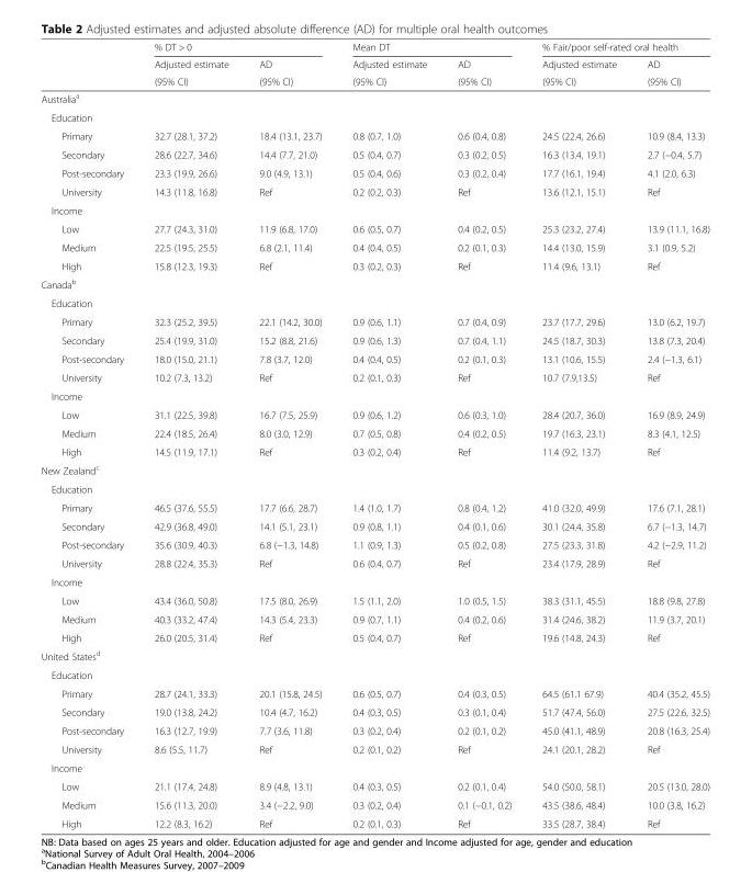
<table><thead><tr><td rowspan="3"></td><td colspan="2">% DT &gt; 0</td><td colspan="2">Mean DT</td><td colspan="2">% Fair/poor self-rated oral health</td></tr><tr><td rowspan="2">Adjusted estimate (95% CI)</td><td rowspan="2">AD (95% CI)</td><td rowspan="2">Adjusted estimate (95% CI)</td><td rowspan="2">AD (95% CI)</td><td rowspan="2">Adjusted estimate (95% CI)</td><td rowspan="2">AD (95% CI)</td></tr><tr></tr></thead><tbody><tr><td colspan="7">Australia<sup>a</sup></td></tr><tr><td colspan="7">Education</td></tr><tr><td>Primary</td><td>32.7 (28.1, 37.2)</td><td>18.4 (13.1, 23.7)</td><td>0.8 (0.7, 1.0)</td><td>0.6 (0.4, 0.8)</td><td>24.5 (22.4, 26.6)</td><td>10.9 (8.4, 13.3)</td></tr><tr><td>Secondary</td><td>28.6 (22.7, 34.6)</td><td>14.4 (7.7, 21.0)</td><td>0.5 (0.4, 0.7)</td><td>0.3 (0.2, 0.5)</td><td>16.3 (13.4, 19.1)</td><td>2.7 (−0.4, 5.7)</td></tr><tr><td>Post-secondary</td><td>23.3 (19.9, 26.6)</td><td>9.0 (4.9, 13.1)</td><td>0.5 (0.4, 0.6)</td><td>0.3 (0.2, 0.4)</td><td>17.7 (16.1, 19.4)</td><td>4.1 (2.0, 6.3)</td></tr><tr><td>University</td><td>14.3 (11.8, 16.8)</td><td>Ref</td><td>0.2 (0.2, 0.3)</td><td>Ref</td><td>13.6 (12.1, 15.1)</td><td>Ref</td></tr><tr><td colspan="7">Income</td></tr><tr><td>Low</td><td>27.7 (24.3, 31.0)</td><td>11.9 (6.8, 17.0)</td><td>0.6 (0.5, 0.7)</td><td>0.4 (0.2, 0.5)</td><td>25.3 (23.2, 27.4)</td><td>13.9 (11.1, 16.8)</td></tr><tr><td>Medium</td><td>22.5 (19.5, 25.5)</td><td>6.8 (2.1, 11.4)</td><td>0.4 (0.4, 0.5)</td><td>0.2 (0.1, 0.3)</td><td>14.4 (13.0, 15.9)</td><td>3.1 (0.9, 5.2)</td></tr><tr><td>High</td><td>15.8 (12.3, 19.3)</td><td>Ref</td><td>0.3 (0.2, 0.3)</td><td>Ref</td><td>11.4 (9.6, 13.1)</td><td>Ref</td></tr><tr><td colspan="7">Canada<sup>b</sup></td></tr><tr><td colspan="7">Education</td></tr><tr><td>Primary</td><td>32.3 (25.2, 39.5)</td><td>22.1 (14.2, 30.0)</td><td>0.9 (0.6, 1.1)</td><td>0.7 (0.4, 0.9)</td><td>23.7 (17.7, 29.6)</td><td>13.0 (6.2, 19.7)</td></tr><tr><td>Secondary</td><td>25.4 (19.9, 31.0)</td><td>15.2 (8.8, 21.6)</td><td>0.9 (0.6, 1.3)</td><td>0.7 (0.4, 1.1)</td><td>24.5 (18.7, 30.3)</td><td>13.8 (7.3, 20.4)</td></tr><tr><td>Post-secondary</td><td>18.0 (15.0, 21.1)</td><td>7.8 (3.7, 12.0)</td><td>0.4 (0.4, 0.5)</td><td>0.2 (0.1, 0.3)</td><td>13.1 (10.6, 15.5)</td><td>2.4 (−1.3, 6.1)</td></tr><tr><td>University</td><td>10.2 (7.3, 13.2)</td><td>Ref</td><td>0.2 (0.1, 0.3)</td><td>Ref</td><td>10.7 (7.9,13.5)</td><td>Ref</td></tr><tr><td colspan="7">Income</td></tr><tr><td>Low</td><td>31.1 (22.5, 39.8)</td><td>16.7 (7.5, 25.9)</td><td>0.9 (0.6, 1.2)</td><td>0.6 (0.3, 1.0)</td><td>28.4 (20.7, 36.0)</td><td>16.9 (8.9, 24.9)</td></tr><tr><td>Medium</td><td>22.4 (18.5, 26.4)</td><td>8.0 (3.0, 12.9)</td><td>0.7 (0.5, 0.8)</td><td>0.4 (0.2, 0.5)</td><td>19.7 (16.3, 23.1)</td><td>8.3 (4.1, 12.5)</td></tr><tr><td>High</td><td>14.5 (11.9, 17.1)</td><td>Ref</td><td>0.3 (0.2, 0.4)</td><td>Ref</td><td>11.4 (9.2, 13.7)</td><td>Ref</td></tr><tr><td colspan="7">New Zealand<sup>c</sup></td></tr><tr><td colspan="7">Education</td></tr><tr><td>Primary</td><td>46.5 (37.6, 55.5)</td><td>17.7 (6.6, 28.7)</td><td>1.4 (1.0, 1.7)</td><td>0.8 (0.4, 1.2)</td><td>41.0 (32.0, 49.9)</td><td>17.6 (7.1, 28.1)</td></tr><tr><td>Secondary</td><td>42.9 (36.8, 49.0)</td><td>14.1 (5.1, 23.1)</td><td>0.9 (0.8, 1.1)</td><td>0.4 (0.1, 0.6)</td><td>30.1 (24.4, 35.8)</td><td>6.7 (−1.3, 14.7)</td></tr><tr><td>Post-secondary</td><td>35.6 (30.9, 40.3)</td><td>6.8 (−1.3, 14.8)</td><td>1.1 (0.9, 1.3)</td><td>0.5 (0.2, 0.8)</td><td>27.5 (23.3, 31.8)</td><td>4.2 (−2.9, 11.2)</td></tr><tr><td>University</td><td>28.8 (22.4, 35.3)</td><td>Ref</td><td>0.6 (0.4, 0.7)</td><td>Ref</td><td>23.4 (17.9, 28.9)</td><td>Ref</td></tr><tr><td colspan="7">Income</td></tr><tr><td>Low</td><td>43.4 (36.0, 50.8)</td><td>17.5 (8.0, 26.9)</td><td>1.5 (1.1, 2.0)</td><td>1.0 (0.5, 1.5)</td><td>38.3 (31.1, 45.5)</td><td>18.8 (9.8, 27.8)</td></tr><tr><td>Medium</td><td>40.3 (33.2, 47.4)</td><td>14.3 (5.4, 23.3)</td><td>0.9 (0.7, 1.1)</td><td>0.4 (0.2, 0.6)</td><td>31.4 (24.6, 38.2)</td><td>11.9 (3.7, 20.1)</td></tr><tr><td>High</td><td>26.0 (20.5, 31.4)</td><td>Ref</td><td>0.5 (0.4, 0.7)</td><td>Ref</td><td>19.6 (14.8, 24.3)</td><td>Ref</td></tr><tr><td colspan="7">United States<sup>d</sup></td></tr><tr><td colspan="7">Education</td></tr><tr><td>Primary</td><td>28.7 (24.1, 33.3)</td><td>20.1 (15.8, 24.5)</td><td>0.6 (0.5, 0.7)</td><td>0.4 (0.3, 0.5)</td><td>64.5 (61.1 67.9)</td><td>40.4 (35.2, 45.5)</td></tr><tr><td>Secondary</td><td>19.0 (13.8, 24.2)</td><td>10.4 (4.7, 16.2)</td><td>0.4 (0.3, 0.5)</td><td>0.3 (0.1, 0.4)</td><td>51.7 (47.4, 56.0)</td><td>27.5 (22.6, 32.5)</td></tr><tr><td>Post-secondary</td><td>16.3 (12.7, 19.9)</td><td>7.7 (3.6, 11.8)</td><td>0.3 (0.2, 0.4)</td><td>0.2 (0.1, 0.2)</td><td>45.0 (41.1, 48.9)</td><td>20.8 (16.3, 25.4)</td></tr><tr><td>University</td><td>8.6 (5.5, 11.7)</td><td>Ref</td><td>0.2 (0.1, 0.2)</td><td>Ref</td><td>24.1 (20.1, 28.2)</td><td>Ref</td></tr><tr><td colspan="7">Income</td></tr><tr><td>Low</td><td>21.1 (17.4, 24.8)</td><td>8.9 (4.8, 13.1)</td><td>0.4 (0.3, 0.5)</td><td>0.2 (0.1, 0.4)</td><td>54.0 (50.0, 58.1)</td><td>20.5 (13.0, 28.0)</td></tr><tr><td>Medium</td><td>15.6 (11.3, 20.0)</td><td>3.4 (−2.2, 9.0)</td><td>0.3 (0.2, 0.4)</td><td>0.1 (−0.1, 0.2)</td><td>43.5 (38.6, 48.4)</td><td>10.0 (3.8, 16.2)</td></tr><tr><td>High</td><td>12.2 (8.3, 16.2)</td><td>Ref</td><td>0.2 (0.1, 0.3)</td><td>Ref</td><td>33.5 (28.7, 38.4)</td><td>Ref</td></tr></tbody></table>